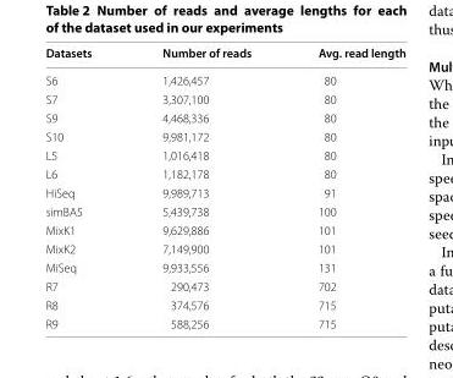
<table><thead><tr><td>Datasets</td><td>Number of reads</td><td>Avg. read length</td></tr></thead><tbody><tr><td>S6</td><td>1,426,457</td><td>80</td></tr><tr><td>S7</td><td>3,307,100</td><td>80</td></tr><tr><td>S9</td><td>4,468,336</td><td>80</td></tr><tr><td>S10</td><td>9,981,172</td><td>80</td></tr><tr><td>L5</td><td>1,016,418</td><td>80</td></tr><tr><td>L6</td><td>1,182,178</td><td>80</td></tr><tr><td>HiSeq</td><td>9,989,713</td><td>91</td></tr><tr><td>simBA5</td><td>5,439,738</td><td>100</td></tr><tr><td>MixK1</td><td>9,629,886</td><td>101</td></tr><tr><td>MixK2</td><td>7,149,900</td><td>101</td></tr><tr><td>MiSeq</td><td>9,933,556</td><td>131</td></tr><tr><td>R7</td><td>290,473</td><td>702</td></tr><tr><td>R8</td><td>374,576</td><td>715</td></tr><tr><td>R9</td><td>588,256</td><td>715</td></tr></tbody></table>